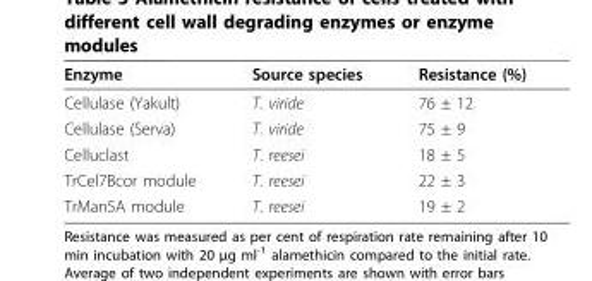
<table><thead><tr><td>Enzyme</td><td>Source species</td><td>Resistance (%)</td></tr></thead><tbody><tr><td>Cellulase (Yakult)</td><td>T. viride</td><td>76 ± 12</td></tr><tr><td>Cellulase (Serva)</td><td>T. viride</td><td>75 ± 9</td></tr><tr><td>Celluclast</td><td>T. reesei</td><td>18 ± 5</td></tr><tr><td>TrCel7Bcor module</td><td>T. reesei</td><td>22 ± 3</td></tr><tr><td>TrMan5A module</td><td>T. reesei</td><td>19 ± 2</td></tr></tbody></table>